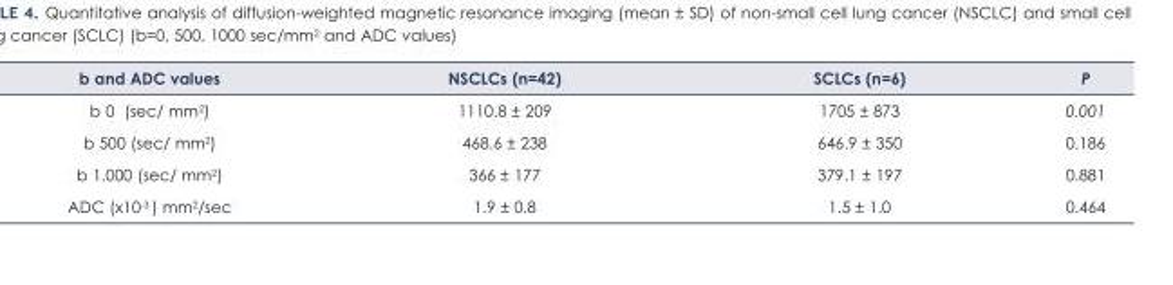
<table><thead><tr><td>b and ADC values</td><td>NSCLCs (n=42)</td><td>SCLCs (n=6)</td><td>P</td></tr></thead><tbody><tr><td>b 0 (sec/ mm<sup>2</sup>)</td><td>1110.8 ± 209</td><td>1705 ± 873</td><td>0.001</td></tr><tr><td>b 500 (sec/ mm<sup>2</sup>)</td><td>468.6 ± 238</td><td>646.9 ± 350</td><td>0.186</td></tr><tr><td>b 1.000 (sec/ mm<sup>2</sup>)</td><td>366 ± 177</td><td>379.1 ± 197</td><td>0.881</td></tr><tr><td>ADC (x10-3 ) mm2/sec</td><td>1.9 ± 0.8</td><td>1.5 ± 1.0</td><td>0.464</td></tr></tbody></table>